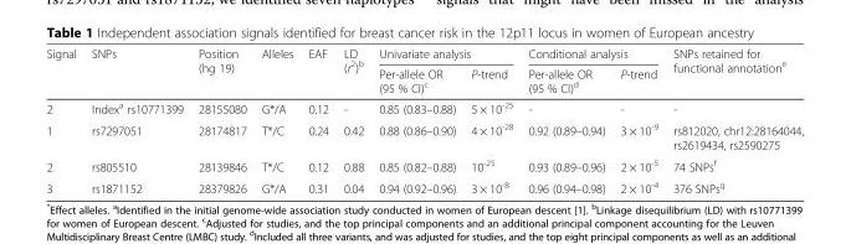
<table><thead><tr><td rowspan="2">Signal</td><td rowspan="2">SNPs</td><td rowspan="2">Position (hg 19)</td><td rowspan="2">Alleles</td><td rowspan="2">EAF</td><td rowspan="2">LD (r<sup>2</sup>)<sup>b</sup></td><td colspan="2">Univariate analysis</td><td colspan="2">Conditional analysis</td><td rowspan="2">SNPs retained for functional annotation<sup>e</sup></td></tr><tr><td>Per-allele OR (95 % CI)<sup>c</sup></td><td>P-trend</td><td>Per-allele OR (95 % CI)<sup>d</sup></td><td>P-trend</td></tr></thead><tbody><tr><td>2</td><td>Index<sup>a</sup> rs10771399</td><td>28155080</td><td>G*/A</td><td>0.12</td><td>-</td><td>0.85 (0.83–0.88)</td><td>5 × 10<sup>-25</sup></td><td>-</td><td>-</td><td>-</td></tr><tr><td>1</td><td>rs7297051</td><td>28174817</td><td>T*/C</td><td>0.24</td><td>0.42</td><td>0.88 (0.86–0.90)</td><td>4 × 10<sup>-28</sup></td><td>0.92 (0.89–0.94)</td><td>3 × 10<sup>-9</sup></td><td>rs812020, chr12:28164044, rs2619434, rs2590275</td></tr><tr><td>2</td><td>rs805510</td><td>28139846</td><td>T*/C</td><td>0.12</td><td>0.88</td><td>0.85 (0.82–0.88)</td><td>10<sup>-25</sup></td><td>0.93 (0.89–0.96)</td><td>2 × 10<sup>-5</sup></td><td>74 SNPs<sup>f</sup></td></tr><tr><td>3</td><td>rs1871152</td><td>28379826</td><td>G*/A</td><td>0.31</td><td>0.04</td><td>0.94 (0.92–0.96)</td><td>3 × 10<sup>-8</sup></td><td>0.96 (0.94–0.98)</td><td>2 × 10<sup>-4</sup></td><td>376 SNPs<sup>g</sup></td></tr></tbody></table>